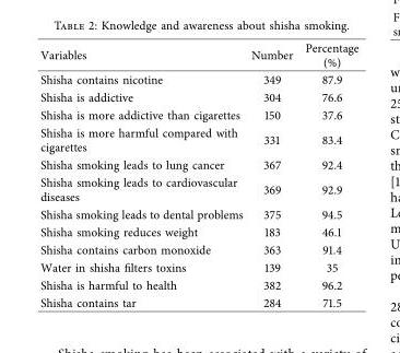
<table><thead><tr><td>Variables</td><td>Number</td><td>Percentage (%)</td></tr></thead><tbody><tr><td>Shisha contains nicotine</td><td>349</td><td>87.9</td></tr><tr><td>Shisha is addictive</td><td>304</td><td>76.6</td></tr><tr><td>Shisha is more addictive than cigarettes</td><td>150</td><td>37.6</td></tr><tr><td>Shisha is more harmful compared with cigarettes</td><td>331</td><td>83.4</td></tr><tr><td>Shisha smoking leads to lung cancer</td><td>367</td><td>92.4</td></tr><tr><td>Shisha smoking leads to cardiovascular diseases</td><td>369</td><td>92.9</td></tr><tr><td>Shisha smoking leads to dental problems</td><td>375</td><td>94.5</td></tr><tr><td>Shisha smoking reduces weight</td><td>183</td><td>46.1</td></tr><tr><td>Shisha contains carbon monoxide</td><td>363</td><td>91.4</td></tr><tr><td>Water in shisha flters toxins</td><td>139</td><td>35</td></tr><tr><td>Shisha is harmful to health</td><td>382</td><td>96.2</td></tr><tr><td>Shisha contains tar</td><td>284</td><td>71.5</td></tr></tbody></table>